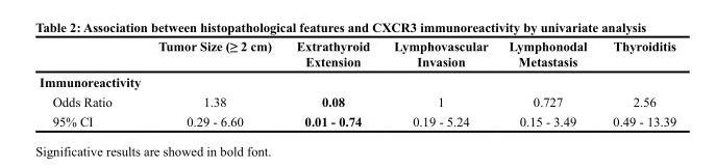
<table><thead><tr><td></td><td>Tumor Size (≥ 2 cm)</td><td>Extrathyroid Extension</td><td>Lymphovascular Invasion</td><td>Lymphonodal Metastasis</td><td>Thyroiditis</td></tr></thead><tbody><tr><td colspan="6">Immunoreactivity</td></tr><tr><td>Odds Ratio</td><td>1.38</td><td>0.08</td><td>1</td><td>0.727</td><td>2.56</td></tr><tr><td>95% CI</td><td>0.29 - 6.60</td><td>0.01 - 0.74</td><td>0.19 - 5.24</td><td>0.15 - 3.49</td><td>0.49 - 13.39</td></tr></tbody></table>